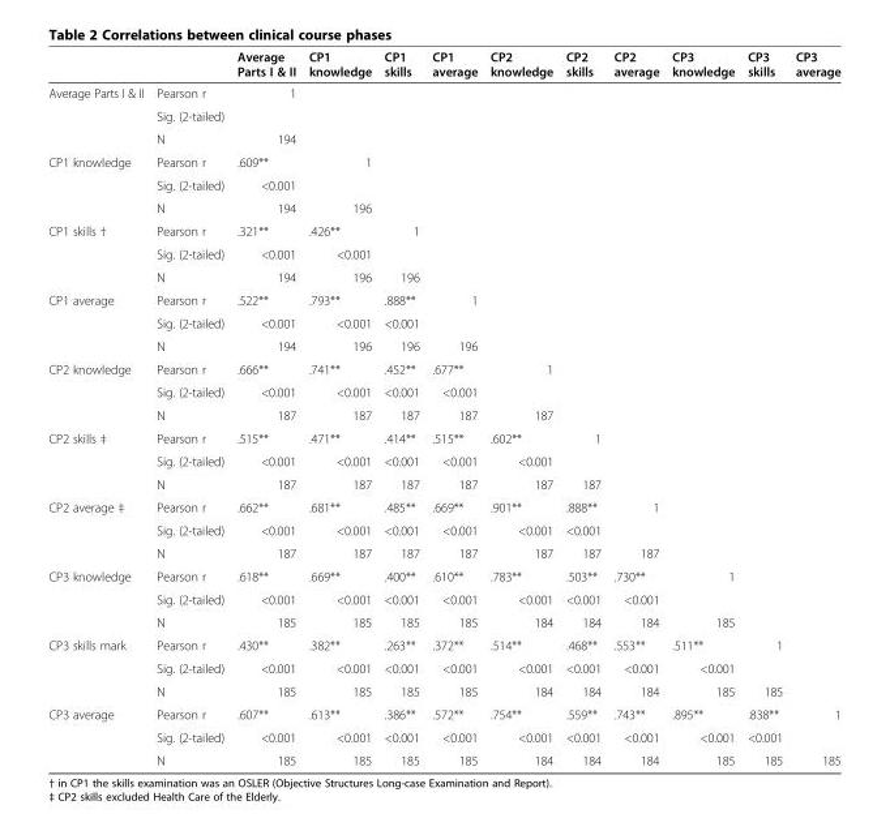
<table><thead><tr><td></td><td></td><td>Average Parts I &amp; II</td><td>CP1 knowledge</td><td>CP1 skills</td><td>CP1 average</td><td>CP2 knowledge</td><td>CP2 skills</td><td>CP2 average</td><td>CP3 knowledge</td><td>CP3 skills</td><td>CP3 average</td></tr></thead><tbody><tr><td rowspan="3">Average Parts I &amp; II</td><td>Pearson r</td><td>1</td><td></td><td></td><td></td><td></td><td></td><td></td><td></td><td></td><td></td></tr><tr><td>Sig. (2-tailed)</td><td></td><td></td><td></td><td></td><td></td><td></td><td></td><td></td><td></td><td></td></tr><tr><td>N</td><td>194</td><td></td><td></td><td></td><td></td><td></td><td></td><td></td><td></td><td></td></tr><tr><td rowspan="3">CP1 knowledge</td><td>Pearson r</td><td>.609**</td><td>1</td><td></td><td></td><td></td><td></td><td></td><td></td><td></td><td></td></tr><tr><td>Sig. (2-tailed)</td><td>&lt;0.001</td><td></td><td></td><td></td><td></td><td></td><td></td><td></td><td></td><td></td></tr><tr><td>N</td><td>194</td><td>196</td><td></td><td></td><td></td><td></td><td></td><td></td><td></td><td></td></tr><tr><td rowspan="3">CP1 skills †</td><td>Pearson r</td><td>.321**</td><td>.426**</td><td>1</td><td></td><td></td><td></td><td></td><td></td><td></td><td></td></tr><tr><td>Sig. (2-tailed)</td><td>&lt;0.001</td><td>&lt;0.001</td><td></td><td></td><td></td><td></td><td></td><td></td><td></td><td></td></tr><tr><td>N</td><td>194</td><td>196</td><td>196</td><td></td><td></td><td></td><td></td><td></td><td></td><td></td></tr><tr><td rowspan="3">CP1 average</td><td>Pearson r</td><td>.522**</td><td>.793**</td><td>.888**</td><td>1</td><td></td><td></td><td></td><td></td><td></td><td></td></tr><tr><td>Sig. (2-tailed)</td><td>&lt;0.001</td><td>&lt;0.001</td><td>&lt;0.001</td><td></td><td></td><td></td><td></td><td></td><td></td><td></td></tr><tr><td>N</td><td>194</td><td>196</td><td>196</td><td>196</td><td></td><td></td><td></td><td></td><td></td><td></td></tr><tr><td rowspan="3">CP2 knowledge</td><td>Pearson r</td><td>.666**</td><td>.741**</td><td>.452**</td><td>.677**</td><td>1</td><td></td><td></td><td></td><td></td><td></td></tr><tr><td>Sig. (2-tailed)</td><td>&lt;0.001</td><td>&lt;0.001</td><td>&lt;0.001</td><td>&lt;0.001</td><td></td><td></td><td></td><td></td><td></td><td></td></tr><tr><td>N</td><td>187</td><td>187</td><td>187</td><td>187</td><td>187</td><td></td><td></td><td></td><td></td><td></td></tr><tr><td rowspan="3">CP2 skills ‡</td><td>Pearson r</td><td>.515**</td><td>.471**</td><td>.414**</td><td>.515**</td><td>.602**</td><td>1</td><td></td><td></td><td></td><td></td></tr><tr><td>Sig. (2-tailed)</td><td>&lt;0.001</td><td>&lt;0.001</td><td>&lt;0.001</td><td>&lt;0.001</td><td>&lt;0.001</td><td></td><td></td><td></td><td></td><td></td></tr><tr><td>N</td><td>187</td><td>187</td><td>187</td><td>187</td><td>187</td><td>187</td><td></td><td></td><td></td><td></td></tr><tr><td rowspan="3">CP2 average ‡</td><td>Pearson r</td><td>.662**</td><td>.681**</td><td>.485**</td><td>.669**</td><td>.901**</td><td>.888**</td><td>1</td><td></td><td></td><td></td></tr><tr><td>Sig. (2-tailed)</td><td>&lt;0.001</td><td>&lt;0.001</td><td>&lt;0.001</td><td>&lt;0.001</td><td>&lt;0.001</td><td>&lt;0.001</td><td></td><td></td><td></td><td></td></tr><tr><td>N</td><td>187</td><td>187</td><td>187</td><td>187</td><td>187</td><td>187</td><td>187</td><td></td><td></td><td></td></tr><tr><td rowspan="3">CP3 knowledge</td><td>Pearson r</td><td>.618**</td><td>.669**</td><td>.400**</td><td>.610**</td><td>.783**</td><td>.503**</td><td>.730**</td><td>1</td><td></td><td></td></tr><tr><td>Sig. (2-tailed)</td><td>&lt;0.001</td><td>&lt;0.001</td><td>&lt;0.001</td><td>&lt;0.001</td><td>&lt;0.001</td><td>&lt;0.001</td><td>&lt;0.001</td><td></td><td></td><td></td></tr><tr><td>N</td><td>185</td><td>185</td><td>185</td><td>185</td><td>184</td><td>184</td><td>184</td><td>185</td><td></td><td></td></tr><tr><td rowspan="3">CP3 skills mark</td><td>Pearson r</td><td>.430**</td><td>.382**</td><td>.263**</td><td>.372**</td><td>.514**</td><td>.468**</td><td>.553**</td><td>.511**</td><td>1</td><td></td></tr><tr><td>Sig. (2-tailed)</td><td>&lt;0.001</td><td>&lt;0.001</td><td>&lt;0.001</td><td>&lt;0.001</td><td>&lt;0.001</td><td>&lt;0.001</td><td>&lt;0.001</td><td>&lt;0.001</td><td></td><td></td></tr><tr><td>N</td><td>185</td><td>185</td><td>185</td><td>185</td><td>184</td><td>184</td><td>184</td><td>185</td><td>185</td><td></td></tr><tr><td rowspan="3">CP3 average</td><td>Pearson r</td><td>.607**</td><td>.613**</td><td>.386**</td><td>.572**</td><td>.754**</td><td>.559**</td><td>.743**</td><td>.895**</td><td>.838**</td><td>1</td></tr><tr><td>Sig. (2-tailed)</td><td>&lt;0.001</td><td>&lt;0.001</td><td>&lt;0.001</td><td>&lt;0.001</td><td>&lt;0.001</td><td>&lt;0.001</td><td>&lt;0.001</td><td>&lt;0.001</td><td>&lt;0.001</td><td></td></tr><tr><td>N</td><td>185</td><td>185</td><td>185</td><td>185</td><td>184</td><td>184</td><td>184</td><td>185</td><td>185</td><td>185</td></tr></tbody></table>